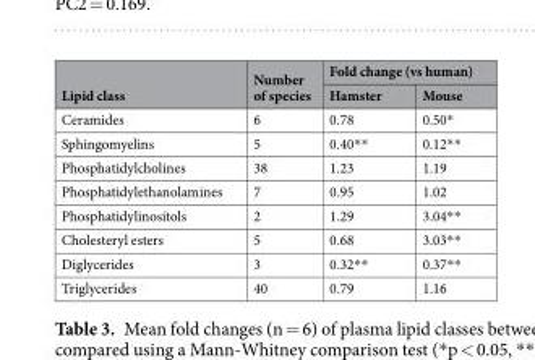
<table><thead><tr><td rowspan="2">Lipid class</td><td rowspan="2">Number of species</td><td colspan="2">Fold change (vs human)</td></tr><tr><td>Hamster</td><td>Mouse</td></tr></thead><tbody><tr><td>Ceramides</td><td>6</td><td>0.78</td><td>0.50*</td></tr><tr><td>Sphingomyelins</td><td>5</td><td>0.40**</td><td>0.12**</td></tr><tr><td>Phosphatidylcholines</td><td>38</td><td>1.23</td><td>1.19</td></tr><tr><td>Phosphatidylethanolamines</td><td>7</td><td>0.95</td><td>1.02</td></tr><tr><td>Phosphatidylinositols</td><td>2</td><td>1.29</td><td>3.04**</td></tr><tr><td>Cholesteryl esters</td><td>5</td><td>0.68</td><td>3.03**</td></tr><tr><td>Diglycerides</td><td>3</td><td>0.32**</td><td>0.37**</td></tr><tr><td>Triglycerides</td><td>40</td><td>0.79</td><td>1.16</td></tr></tbody></table>